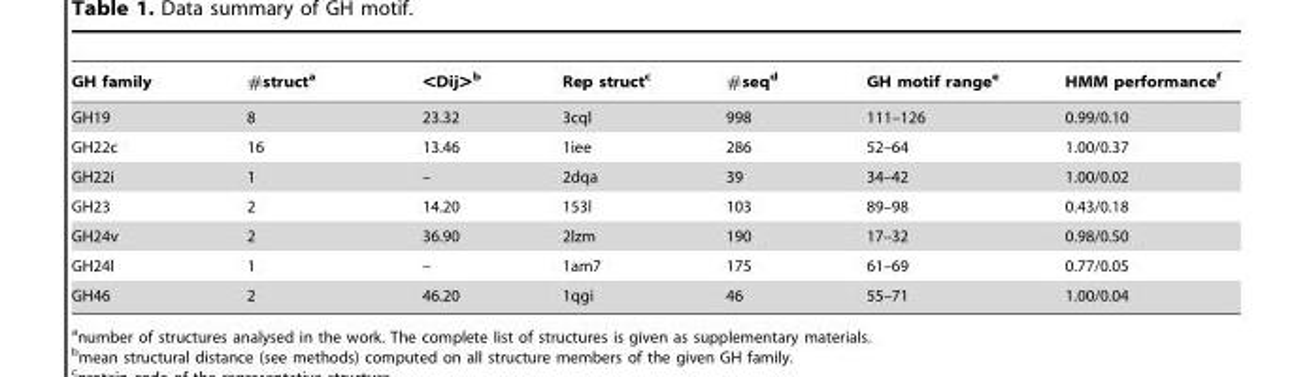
<table><thead><tr><td>GH family</td><td>#struct<sup>a</sup></td><td>&lt;Dij&gt;<sup>b</sup></td><td>Rep struct<sup>c</sup></td><td>#seq<sup>d</sup></td><td>GH motif range<sup>e</sup></td><td>HMM performance<sup>f</sup></td></tr></thead><tbody><tr><td>GH19</td><td>8</td><td>23.32</td><td>3cql</td><td>998</td><td>111–126</td><td>0.99/0.10</td></tr><tr><td>GH22c</td><td>16</td><td>13.46</td><td>1iee</td><td>286</td><td>52–64</td><td>1.00/0.37</td></tr><tr><td>GH22i</td><td>1</td><td>–</td><td>2dqa</td><td>39</td><td>34–42</td><td>1.00/0.02</td></tr><tr><td>GH23</td><td>2</td><td>14.20</td><td>153l</td><td>103</td><td>89–98</td><td>0.43/0.18</td></tr><tr><td>GH24v</td><td>2</td><td>36.90</td><td>2lzm</td><td>190</td><td>17–32</td><td>0.98/0.50</td></tr><tr><td>GH24l</td><td>1</td><td>–</td><td>1am7</td><td>175</td><td>61–69</td><td>0.77/0.05</td></tr><tr><td>GH46</td><td>2</td><td>46.20</td><td>1qgi</td><td>46</td><td>55–71</td><td>1.00/0.04</td></tr></tbody></table>